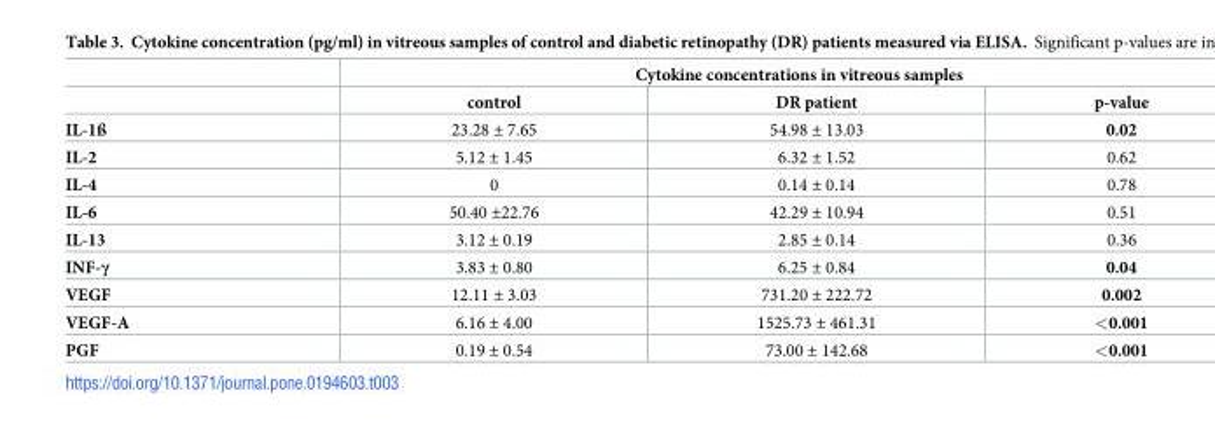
<table><thead><tr><td rowspan="2"></td><td colspan="3">Cytokine concentrations in vitreous samples</td></tr><tr><td>control</td><td>DR patient</td><td>p-value</td></tr></thead><tbody><tr><td>IL-1ß</td><td>23.28 ± 7.65</td><td>54.98 ± 13.03</td><td>0.02</td></tr><tr><td>IL-2</td><td>5.12 ± 1.45</td><td>6.32 ± 1.52</td><td>0.62</td></tr><tr><td>IL-4</td><td>0</td><td>0.14 ± 0.14</td><td>0.78</td></tr><tr><td>IL-6</td><td>50.40 ±22.76</td><td>42.29 ± 10.94</td><td>0.51</td></tr><tr><td>IL-13</td><td>3.12 ± 0.19</td><td>2.85 ± 0.14</td><td>0.36</td></tr><tr><td>INF-γ</td><td>3.83 ± 0.80</td><td>6.25 ± 0.84</td><td>0.04</td></tr><tr><td>VEGF</td><td>12.11 ± 3.03</td><td>731.20 ± 222.72</td><td>0.002</td></tr><tr><td>VEGF-A</td><td>6.16 ± 4.00</td><td>1525.73 ± 461.31</td><td>&lt;0.001</td></tr><tr><td>PGF</td><td>0.19 ± 0.54</td><td>73.00 ± 142.68</td><td>&lt;0.001</td></tr></tbody></table>